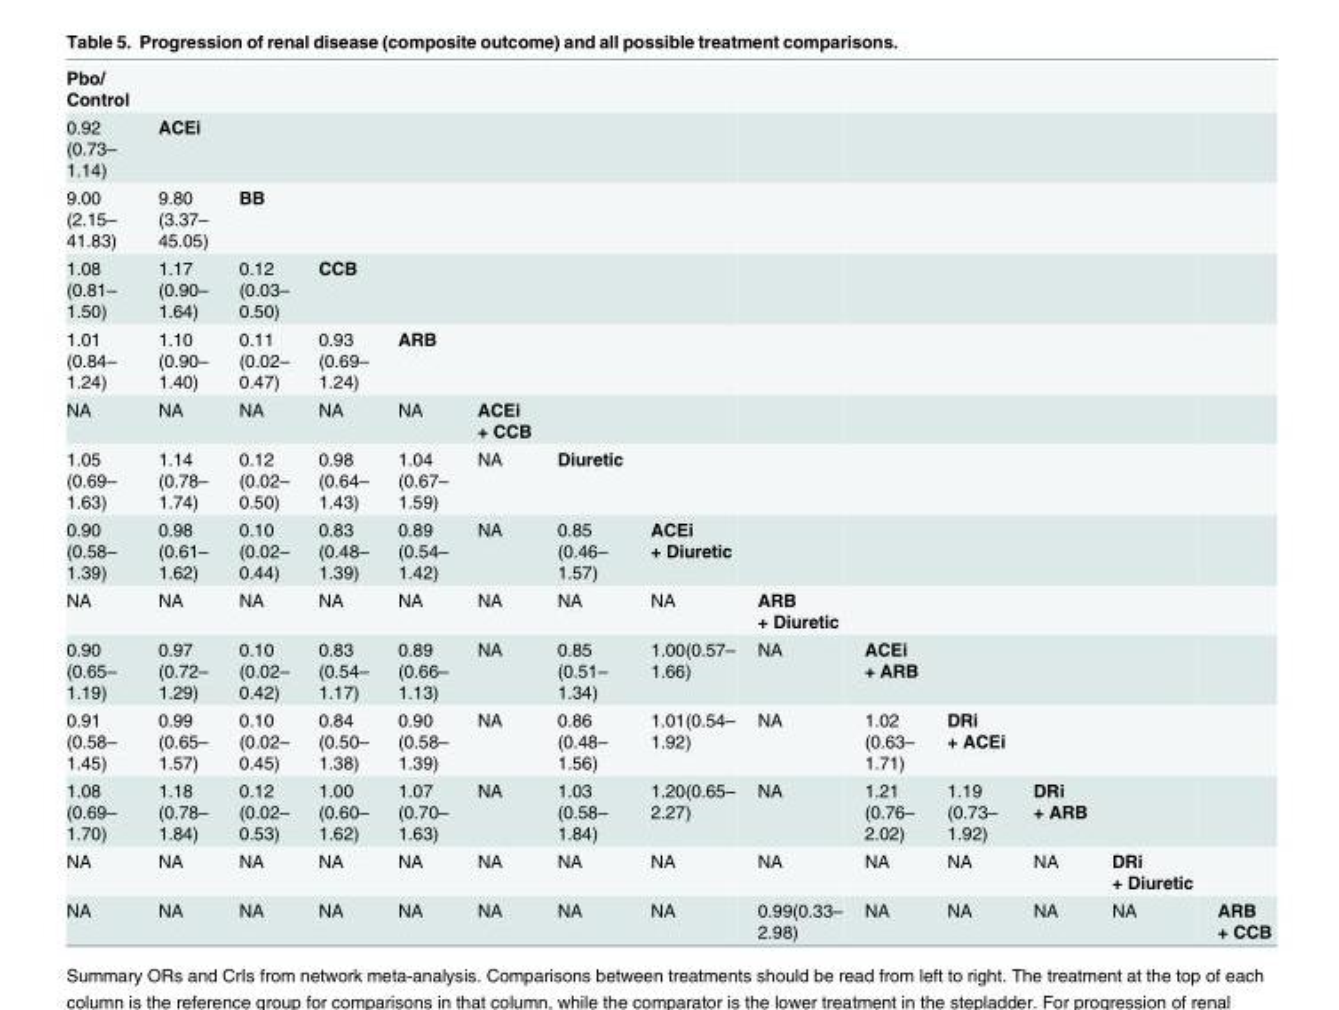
<table><tbody><tr><td colspan="14">Pbo/ Control</td></tr><tr><td>0.92 (0.73– 1.14)</td><td>ACEi</td><td></td><td></td><td></td><td></td><td></td><td></td><td></td><td></td><td></td><td></td><td></td><td></td></tr><tr><td>9.00 (2.15– 41.83)</td><td>9.80 (3.37– 45.05)</td><td>BB</td><td></td><td></td><td></td><td></td><td></td><td></td><td></td><td></td><td></td><td></td><td></td></tr><tr><td>1.08 (0.81– 1.50)</td><td>1.17 (0.90– 1.64)</td><td>0.12 (0.03– 0.50)</td><td>CCB</td><td></td><td></td><td></td><td></td><td></td><td></td><td></td><td></td><td></td><td></td></tr><tr><td>1.01 (0.84– 1.24)</td><td>1.10 (0.90– 1.40)</td><td>0.11 (0.02– 0.47)</td><td>0.93 (0.69– 1.24)</td><td>ARB</td><td></td><td></td><td></td><td></td><td></td><td></td><td></td><td></td><td></td></tr><tr><td>NA</td><td>NA</td><td>NA</td><td>NA</td><td>NA</td><td>ACEi + CCB</td><td></td><td></td><td></td><td></td><td></td><td></td><td></td><td></td></tr><tr><td>1.05 (0.69– 1.63)</td><td>1.14 (0.78– 1.74)</td><td>0.12 (0.02– 0.50)</td><td>0.98 (0.64– 1.43)</td><td>1.04 (0.67– 1.59)</td><td>NA</td><td>Diuretic</td><td></td><td></td><td></td><td></td><td></td><td></td><td></td></tr><tr><td>0.90 (0.58– 1.39)</td><td>0.98 (0.61– 1.62)</td><td>0.10 (0.02– 0.44)</td><td>0.83 (0.48– 1.39)</td><td>0.89 (0.54– 1.42)</td><td>NA</td><td>0.85 (0.46– 1.57)</td><td>ACEi + Diuretic</td><td></td><td></td><td></td><td></td><td></td><td></td></tr><tr><td>NA</td><td>NA</td><td>NA</td><td>NA</td><td>NA</td><td>NA</td><td>NA</td><td>NA</td><td>ARB + Diuretic</td><td></td><td></td><td></td><td></td><td></td></tr><tr><td>0.90 (0.65– 1.19)</td><td>0.97 (0.72– 1.29)</td><td>0.10 (0.02– 0.42)</td><td>0.83 (0.54– 1.17)</td><td>0.89 (0.66– 1.13)</td><td>NA</td><td>0.85 (0.51– 1.34)</td><td>1.00(0.57– 1.66)</td><td>NA</td><td>ACEi + ARB</td><td></td><td></td><td></td><td></td></tr><tr><td>0.91 (0.58– 1.45)</td><td>0.99 (0.65– 1.57)</td><td>0.10 (0.02– 0.45)</td><td>0.84 (0.50– 1.38)</td><td>0.90 (0.58– 1.39)</td><td>NA</td><td>0.86 (0.48– 1.56)</td><td>1.01(0.54– 1.92)</td><td>NA</td><td>1.02 (0.63– 1.71)</td><td>DRi + ACEi</td><td></td><td></td><td></td></tr><tr><td>1.08 (0.69– 1.70)</td><td>1.18 (0.78– 1.84)</td><td>0.12 (0.02– 0.53)</td><td>1.00 (0.60– 1.62)</td><td>1.07 (0.70– 1.63)</td><td>NA</td><td>1.03 (0.58– 1.84)</td><td>1.20(0.65– 2.27)</td><td>NA</td><td>1.21 (0.76– 2.02)</td><td>1.19 (0.73– 1.92)</td><td>DRi + ARB</td><td></td><td></td></tr><tr><td>NA</td><td>NA</td><td>NA</td><td>NA</td><td>NA</td><td>NA</td><td>NA</td><td>NA</td><td>NA</td><td>NA</td><td>NA</td><td>NA</td><td>DRi + Diuretic</td><td></td></tr><tr><td>NA</td><td>NA</td><td>NA</td><td>NA</td><td>NA</td><td>NA</td><td>NA</td><td>NA</td><td>0.99(0.33– 2.98)</td><td>NA</td><td>NA</td><td>NA</td><td>NA</td><td>ARB + CCB</td></tr></tbody></table>